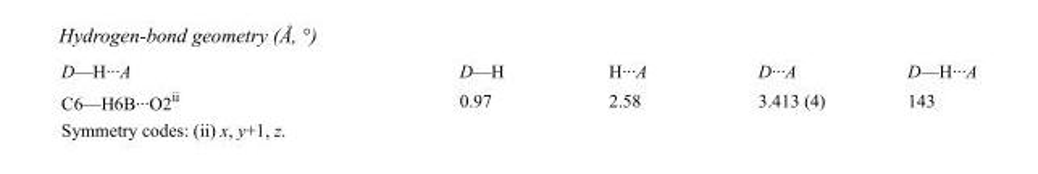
<table><tbody><tr><td>D—H···A</td><td>D—H</td><td>H···A</td><td>D···A</td><td>D—H···A</td></tr><tr><td>C6—H6B···O2<sup>ii</sup></td><td>0.97</td><td>2.58</td><td>3.413 (4)</td><td>143</td></tr></tbody></table>